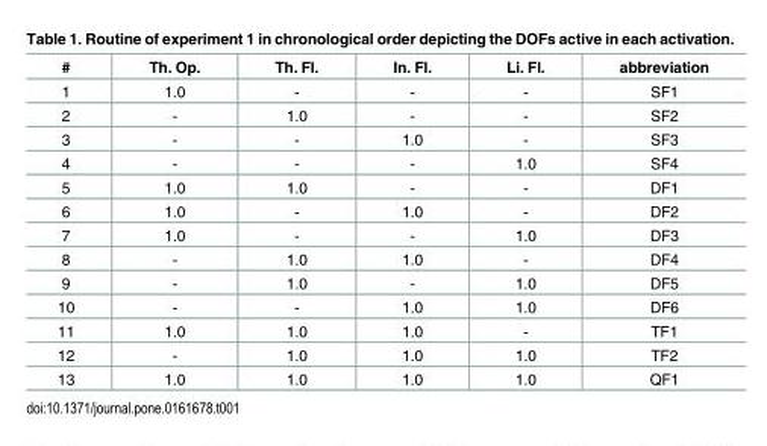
<table><thead><tr><td>#</td><td>Th. Op.</td><td>Th. Fl.</td><td>In. Fl.</td><td>Li. Fl.</td><td>abbreviation</td></tr></thead><tbody><tr><td>1</td><td>1.0</td><td>-</td><td>-</td><td>-</td><td>SF1</td></tr><tr><td>2</td><td>-</td><td>1.0</td><td>-</td><td>-</td><td>SF2</td></tr><tr><td>3</td><td>-</td><td>-</td><td>1.0</td><td>-</td><td>SF3</td></tr><tr><td>4</td><td>-</td><td>-</td><td>-</td><td>1.0</td><td>SF4</td></tr><tr><td>5</td><td>1.0</td><td>1.0</td><td>-</td><td>-</td><td>DF1</td></tr><tr><td>6</td><td>1.0</td><td>-</td><td>1.0</td><td>-</td><td>DF2</td></tr><tr><td>7</td><td>1.0</td><td>-</td><td>-</td><td>1.0</td><td>DF3</td></tr><tr><td>8</td><td>-</td><td>1.0</td><td>1.0</td><td>-</td><td>DF4</td></tr><tr><td>9</td><td>-</td><td>1.0</td><td>-</td><td>1.0</td><td>DF5</td></tr><tr><td>10</td><td>-</td><td>-</td><td>1.0</td><td>1.0</td><td>DF6</td></tr><tr><td>11</td><td>1.0</td><td>1.0</td><td>1.0</td><td>-</td><td>TF1</td></tr><tr><td>12</td><td>-</td><td>1.0</td><td>1.0</td><td>1.0</td><td>TF2</td></tr><tr><td>13</td><td>1.0</td><td>1.0</td><td>1.0</td><td>1.0</td><td>QF1</td></tr></tbody></table>